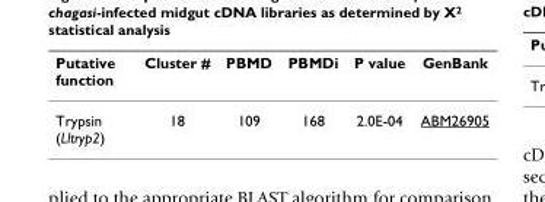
<table><thead><tr><td>Putative function</td><td>Cluster #</td><td>PBMD</td><td>PBMDi</td><td>P value</td><td>GenBank</td></tr></thead><tbody><tr><td>Trypsin (Lltryp2)</td><td>18</td><td>109</td><td>168</td><td>2.0E-04</td><td>ABM26905</td></tr></tbody></table>